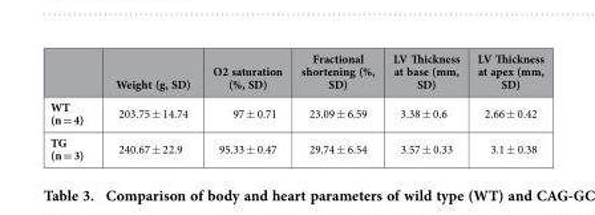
<table><thead><tr><td></td><td>Weight (g, SD)</td><td>O2 saturation (%, SD)</td><td>Fractional shortening (%, SD)</td><td>LV Thickness at base (mm, SD)</td><td>LV Thickness at apex (mm, SD)</td></tr></thead><tbody><tr><td>WT (n = 4)</td><td>203.75 ± 14.74</td><td>97 ± 0.71</td><td>23.09 ± 6.59</td><td>3.38 ± 0.6</td><td>2.66 ± 0.42</td></tr><tr><td>TG (n = 3)</td><td>240.67 ± 22.9</td><td>95.33 ± 0.47</td><td>29.74 ± 6.54</td><td>3.57 ± 0.33</td><td>3.1 ± 0.38</td></tr></tbody></table>